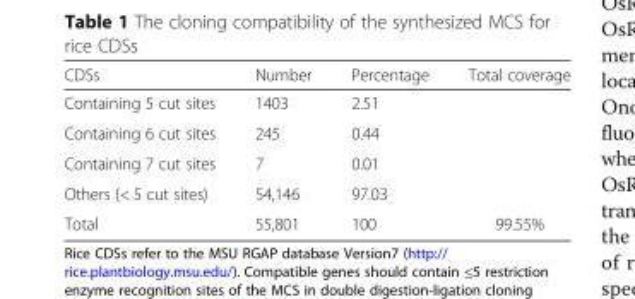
<table><thead><tr><td>CDSs</td><td>Number</td><td>Percentage</td><td>Total coverage</td></tr></thead><tbody><tr><td>Containing 5 cut sites</td><td>1403</td><td>2.51</td><td rowspan="3"></td></tr><tr><td>Containing 6 cut sites</td><td>245</td><td>0.44</td></tr><tr><td>Containing 7 cut sites</td><td>7</td><td>0.01</td></tr><tr><td>Others (&lt; 5 cut sites)</td><td>54,146</td><td>97.03</td><td></td></tr><tr><td>Total</td><td>55,801</td><td>100</td><td>99.55%</td></tr></tbody></table>